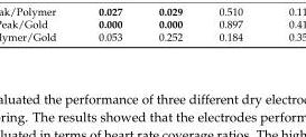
<table><thead><tr><td></td><td>Stand</td><td>Sit</td><td>Lie</td><td>Walk</td></tr></thead><tbody><tr><td>Peak/Polymer</td><td>0.027</td><td>0.029</td><td>0.510</td><td>0.117</td></tr><tr><td>Peak/Gold</td><td>0.000</td><td>0.000</td><td>0.897</td><td>0.418</td></tr><tr><td>Polymer/Gold</td><td>0.053</td><td>0.252</td><td>0.184</td><td>0.354</td></tr></tbody></table>